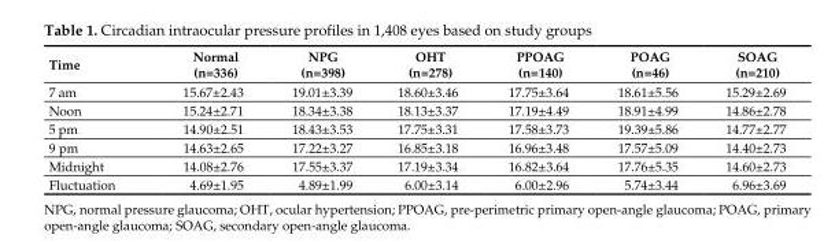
<table><thead><tr><td>Time</td><td>Normal (n=336)</td><td>NPG (n=398)</td><td>OHT (n=278)</td><td>PPOAG (n=140)</td><td>POAG (n=46)</td><td>SOAG (n=210)</td></tr></thead><tbody><tr><td>7 am</td><td>15.67±2.43</td><td>19.01±3.39</td><td>18.60±3.46</td><td>17.75±3.64</td><td>18.61±5.56</td><td>15.29±2.69</td></tr><tr><td>Noon</td><td>15.24±2.71</td><td>18.34±3.38</td><td>18.13±3.37</td><td>17.19±4.49</td><td>18.91±4.99</td><td>14.86±2.78</td></tr><tr><td>5 pm</td><td>14.90±2.51</td><td>18.43±3.53</td><td>17.75±3.31</td><td>17.58±3.73</td><td>19.39±5.86</td><td>14.77±2.77</td></tr><tr><td>9 pm</td><td>14.63±2.65</td><td>17.22±3.27</td><td>16.85±3.18</td><td>16.96±3.48</td><td>17.57±5.09</td><td>14.40±2.73</td></tr><tr><td>Midnight</td><td>14.08±2.76</td><td>17.55±3.37</td><td>17.19±3.34</td><td>16.82±3.64</td><td>17.76±5.35</td><td>14.60±2.73</td></tr><tr><td>Fluctuation</td><td>4.69±1.95</td><td>4.89±1.99</td><td>6.00±3.14</td><td>6.00±2.96</td><td>5.74±3.44</td><td>6.96±3.69</td></tr></tbody></table>